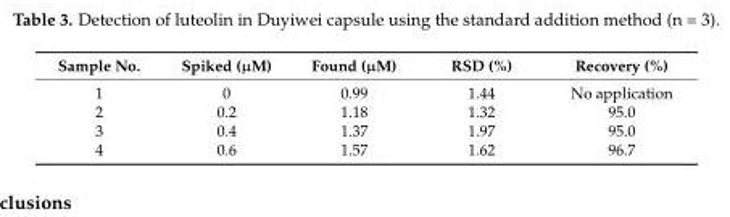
<table><thead><tr><td>Sample No.</td><td>Spiked (µM)</td><td>Found (µM)</td><td>RSD (%)</td><td>Recovery (%)</td></tr></thead><tbody><tr><td>1</td><td>0</td><td>0.99</td><td>1.44</td><td>No application</td></tr><tr><td>2</td><td>0.2</td><td>1.18</td><td>1.32</td><td>95.0</td></tr><tr><td>3</td><td>0.4</td><td>1.37</td><td>1.97</td><td>95.0</td></tr><tr><td>4</td><td>0.6</td><td>1.57</td><td>1.62</td><td>96.7</td></tr></tbody></table>